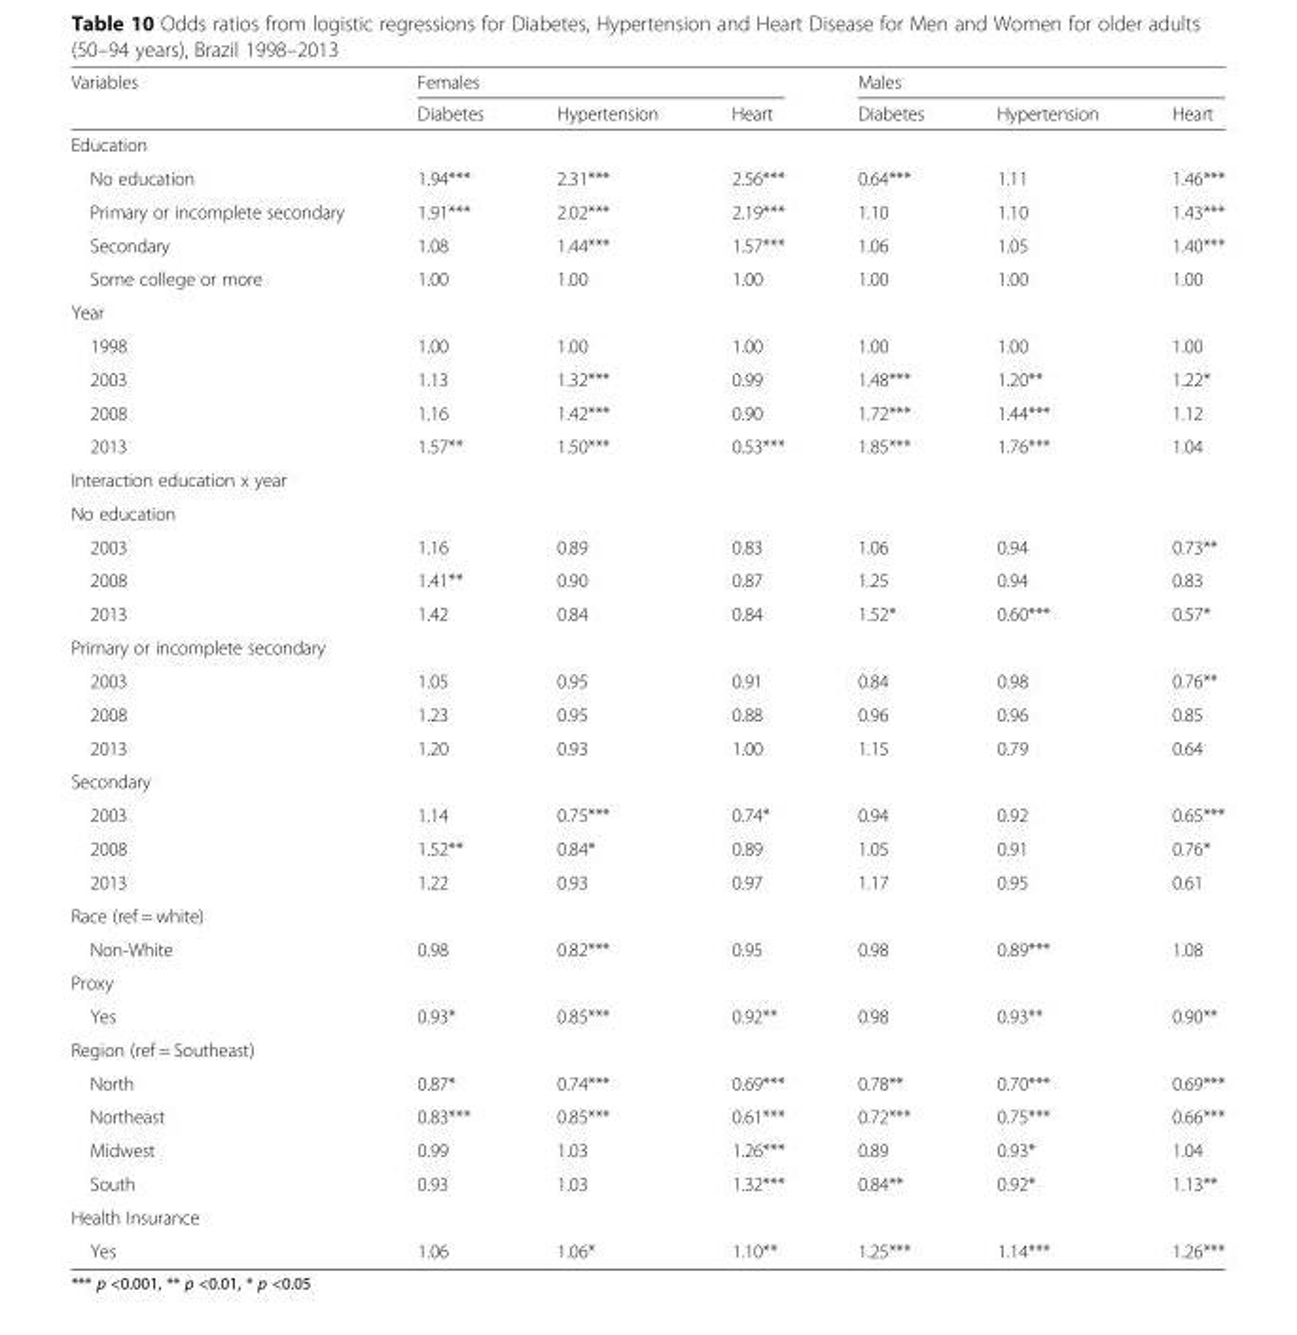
<table><thead><tr><td rowspan="2">Variables</td><td colspan="3">Females</td><td colspan="3">Males</td></tr><tr><td>Diabetes</td><td>Hypertension</td><td>Heart</td><td>Diabetes</td><td>Hypertension</td><td>Heart</td></tr></thead><tbody><tr><td colspan="7">Education</td></tr><tr><td>No education</td><td>1.94***</td><td>2.31***</td><td>2.56***</td><td>0.64***</td><td>1.11</td><td>1.46***</td></tr><tr><td>Primary or incomplete secondary</td><td>1.91***</td><td>2.02***</td><td>2.19***</td><td>1.10</td><td>1.10</td><td>1.43***</td></tr><tr><td>Secondary</td><td>1.08</td><td>1.44***</td><td>1.57***</td><td>1.06</td><td>1.05</td><td>1.40***</td></tr><tr><td>Some college or more</td><td>1.00</td><td>1.00</td><td>1.00</td><td>1.00</td><td>1.00</td><td>1.00</td></tr><tr><td colspan="7">Year</td></tr><tr><td>1998</td><td>1.00</td><td>1.00</td><td>1.00</td><td>1.00</td><td>1.00</td><td>1.00</td></tr><tr><td>2003</td><td>1.13</td><td>1.32***</td><td>0.99</td><td>1.48***</td><td>1.20**</td><td>1.22*</td></tr><tr><td>2008</td><td>1.16</td><td>1.42***</td><td>0.90</td><td>1.72***</td><td>1.44***</td><td>1.12</td></tr><tr><td>2013</td><td>1.57**</td><td>1.50***</td><td>0.53***</td><td>1.85***</td><td>1.76***</td><td>1.04</td></tr><tr><td colspan="7">Interaction education x year</td></tr><tr><td colspan="7">No education</td></tr><tr><td>2003</td><td>1.16</td><td>0.89</td><td>0.83</td><td>1.06</td><td>0.94</td><td>0.73**</td></tr><tr><td>2008</td><td>1.41**</td><td>0.90</td><td>0.87</td><td>1.25</td><td>0.94</td><td>0.83</td></tr><tr><td>2013</td><td>1.42</td><td>0.84</td><td>0.84</td><td>1.52*</td><td>0.60***</td><td>0.57*</td></tr><tr><td colspan="7">Primary or incomplete secondary</td></tr><tr><td>2003</td><td>1.05</td><td>0.95</td><td>0.91</td><td>0.84</td><td>0.98</td><td>0.76**</td></tr><tr><td>2008</td><td>1.23</td><td>0.95</td><td>0.88</td><td>0.96</td><td>0.96</td><td>0.85</td></tr><tr><td>2013</td><td>1.20</td><td>0.93</td><td>1.00</td><td>1.15</td><td>0.79</td><td>0.64</td></tr><tr><td colspan="7">Secondary</td></tr><tr><td>2003</td><td>1.14</td><td>0.75***</td><td>0.74*</td><td>0.94</td><td>0.92</td><td>0.65***</td></tr><tr><td>2008</td><td>1.52**</td><td>0.84*</td><td>0.89</td><td>1.05</td><td>0.91</td><td>0.76*</td></tr><tr><td>2013</td><td>1.22</td><td>0.93</td><td>0.97</td><td>1.17</td><td>0.95</td><td>0.61</td></tr><tr><td colspan="7">Race (ref = white)</td></tr><tr><td>Non-White</td><td>0.98</td><td>0.82***</td><td>0.95</td><td>0.98</td><td>0.89***</td><td>1.08</td></tr><tr><td colspan="7">Proxy</td></tr><tr><td>Yes</td><td>0.93*</td><td>0.85***</td><td>0.92**</td><td>0.98</td><td>0.93**</td><td>0.90**</td></tr><tr><td colspan="7">Region (ref = Southeast)</td></tr><tr><td>North</td><td>0.87*</td><td>0.74***</td><td>0.69***</td><td>0.78**</td><td>0.70***</td><td>0.69***</td></tr><tr><td>Northeast</td><td>0.83***</td><td>0.85***</td><td>0.61***</td><td>0.72***</td><td>0.75***</td><td>0.66***</td></tr><tr><td>Midwest</td><td>0.99</td><td>1.03</td><td>1.26***</td><td>0.89</td><td>0.93*</td><td>1.04</td></tr><tr><td>South</td><td>0.93</td><td>1.03</td><td>1.32***</td><td>0.84**</td><td>0.92*</td><td>1.13**</td></tr><tr><td colspan="7">Health Insurance</td></tr><tr><td>Yes</td><td>1.06</td><td>1.06*</td><td>1.10**</td><td>1.25***</td><td>1.14***</td><td>1.26***</td></tr></tbody></table>